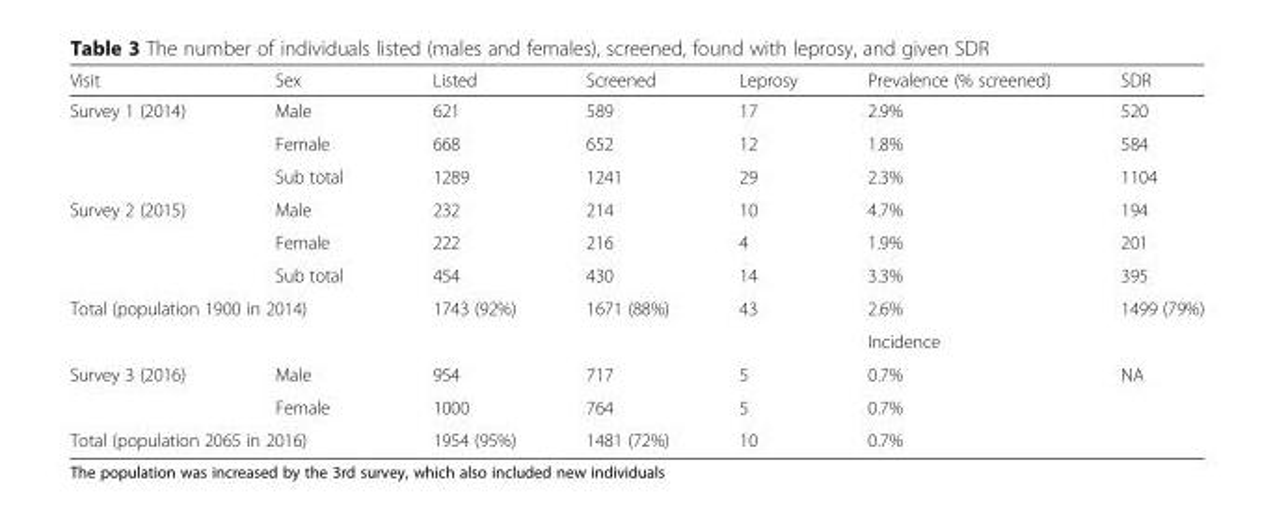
<table><thead><tr><td>Visit</td><td>Sex</td><td>Listed</td><td>Screened</td><td>Leprosy</td><td>Prevalence (% screened)</td><td>SDR</td></tr></thead><tbody><tr><td rowspan="3">Survey 1 (2014)</td><td>Male</td><td>621</td><td>589</td><td>17</td><td>2.9%</td><td>520</td></tr><tr><td>Female</td><td>668</td><td>652</td><td>12</td><td>1.8%</td><td>584</td></tr><tr><td>Sub total</td><td>1289</td><td>1241</td><td>29</td><td>2.3%</td><td>1104</td></tr><tr><td rowspan="3">Survey 2 (2015)</td><td>Male</td><td>232</td><td>214</td><td>10</td><td>4.7%</td><td>194</td></tr><tr><td>Female</td><td>222</td><td>216</td><td>4</td><td>1.9%</td><td>201</td></tr><tr><td>Sub total</td><td>454</td><td>430</td><td>14</td><td>3.3%</td><td>395</td></tr><tr><td colspan="2">Total (population 1900 in 2014)</td><td>1743 (92%)</td><td>1671 (88%)</td><td>43</td><td>2.6%</td><td>1499 (79%)</td></tr><tr><td></td><td></td><td></td><td></td><td></td><td>Incidence</td><td></td></tr><tr><td rowspan="2">Survey 3 (2016)</td><td>Male</td><td>954</td><td>717</td><td>5</td><td>0.7%</td><td rowspan="2">NA</td></tr><tr><td>Female</td><td>1000</td><td>764</td><td>5</td><td>0.7%</td></tr><tr><td colspan="2">Total (population 2065 in 2016)</td><td>1954 (95%)</td><td>1481 (72%)</td><td>10</td><td>0.7%</td><td></td></tr></tbody></table>